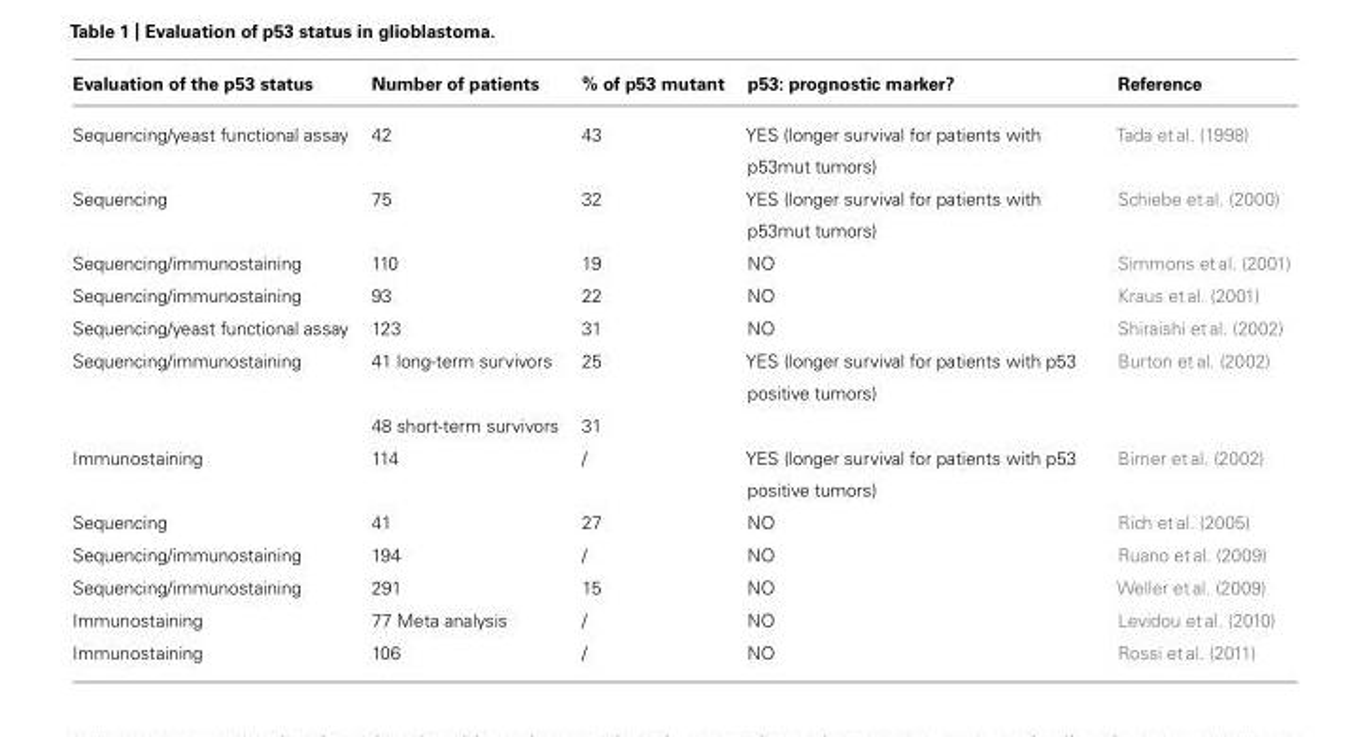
<table><thead><tr><td>Evaluation of the p53 status</td><td>Number of patients</td><td>% of p53 mutant</td><td>p53: prognostic marker?</td><td>Reference</td></tr></thead><tbody><tr><td>Sequencing/yeast functional assay</td><td>42</td><td>43</td><td>YES (longer survival for patients with p53mut tumors)</td><td>Tada et al. (1998)</td></tr><tr><td>Sequencing</td><td>75</td><td>32</td><td>YES (longer survival for patients with p53mut tumors)</td><td>Schiebe et al. (2000)</td></tr><tr><td>Sequencing/immunostaining</td><td>110</td><td>19</td><td>NO</td><td>Simmons et al. (2001)</td></tr><tr><td>Sequencing/immunostaining</td><td>93</td><td>22</td><td>NO</td><td>Kraus et al. (2001)</td></tr><tr><td>Sequencing/yeast functional assay</td><td>123</td><td>31</td><td>NO</td><td>Shiraishi et al. (2002)</td></tr><tr><td rowspan="2">Sequencing/immunostaining</td><td>41 long-term survivors</td><td>25</td><td>YES (longer survival for patients with p53 positive tumors)</td><td>Burton et al. (2002)</td></tr><tr><td>48 short-term survivors</td><td>31</td><td></td><td></td></tr><tr><td>Immunostaining</td><td>114</td><td>/</td><td>YES (longer survival for patients with p53 positive tumors)</td><td>Birner et al. (2002)</td></tr><tr><td>Sequencing</td><td>41</td><td>27</td><td>NO</td><td>Rich et al. (2005)</td></tr><tr><td>Sequencing/immunostaining</td><td>194</td><td>/</td><td>NO</td><td>Ruano et al. (2009)</td></tr><tr><td>Sequencing/immunostaining</td><td>291</td><td>15</td><td>NO</td><td>Weller et al. (2009)</td></tr><tr><td>Immunostaining</td><td>77 Meta analysis</td><td>/</td><td>NO</td><td>Levidou et al. (2010)</td></tr><tr><td>Immunostaining</td><td>106</td><td>/</td><td>NO</td><td>Rossi et al. (2011)</td></tr></tbody></table>